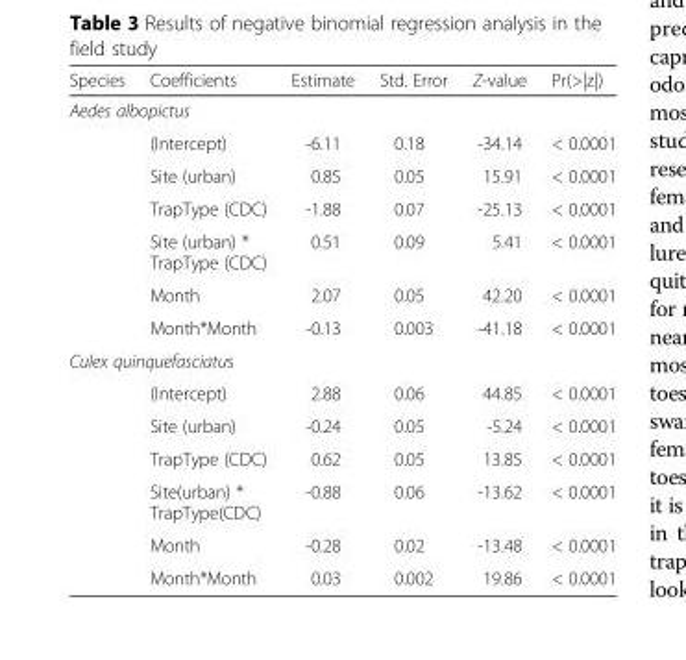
<table><thead><tr><td>Species</td><td>Coefficients</td><td>Estimate</td><td>Std. Error</td><td>Z-value</td><td>Pr(&gt;|z|)</td></tr></thead><tbody><tr><td colspan="6">Aedes albopictus</td></tr><tr><td></td><td>(Intercept)</td><td>-6.11</td><td>0.18</td><td>-34.14</td><td>&lt; 0.0001</td></tr><tr><td></td><td>Site (urban)</td><td>0.85</td><td>0.05</td><td>15.91</td><td>&lt; 0.0001</td></tr><tr><td></td><td>TrapType (CDC)</td><td>-1.88</td><td>0.07</td><td>-25.13</td><td>&lt; 0.0001</td></tr><tr><td></td><td>Site (urban) * TrapType (CDC)</td><td>0.51</td><td>0.09</td><td>5.41</td><td>&lt; 0.0001</td></tr><tr><td></td><td>Month</td><td>2.07</td><td>0.05</td><td>42.20</td><td>&lt; 0.0001</td></tr><tr><td></td><td>Month*Month</td><td>-0.13</td><td>0.003</td><td>-41.18</td><td>&lt; 0.0001</td></tr><tr><td colspan="6">Culex quinquefasciatus</td></tr><tr><td></td><td>(Intercept)</td><td>2.88</td><td>0.06</td><td>44.85</td><td>&lt; 0.0001</td></tr><tr><td></td><td>Site (urban)</td><td>-0.24</td><td>0.05</td><td>-5.24</td><td>&lt; 0.0001</td></tr><tr><td></td><td>TrapType (CDC)</td><td>0.62</td><td>0.05</td><td>13.85</td><td>&lt; 0.0001</td></tr><tr><td></td><td>Site(urban) * TrapType(CDC)</td><td>-0.88</td><td>0.06</td><td>-13.62</td><td>&lt; 0.0001</td></tr><tr><td></td><td>Month</td><td>-0.28</td><td>0.02</td><td>-13.48</td><td>&lt; 0.0001</td></tr><tr><td></td><td>Month*Month</td><td>0.03</td><td>0.002</td><td>19.86</td><td>&lt; 0.0001</td></tr></tbody></table>